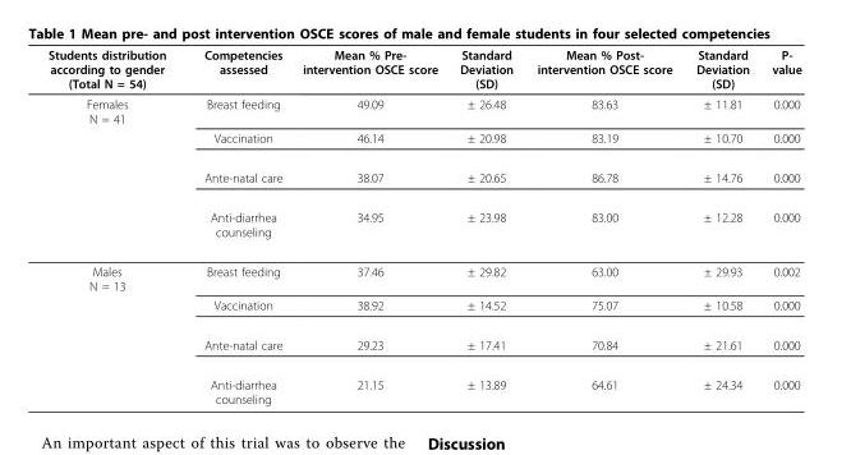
<table><thead><tr><td>Students distribution according to gender (Total N = 54)</td><td>Competencies assessed</td><td>Mean % Pre- intervention OSCE score</td><td>Standard Deviation (SD)</td><td>Mean % Post- intervention OSCE score</td><td>Standard Deviation (SD)</td><td>P- value</td></tr></thead><tbody><tr><td rowspan="4">Females N = 41</td><td>Breast feeding</td><td>49.09</td><td>± 26.48</td><td>83.63</td><td>± 11.81</td><td>0.000</td></tr><tr><td>Vaccination</td><td>46.14</td><td>± 20.98</td><td>83.19</td><td>± 10.70</td><td>0.000</td></tr><tr><td>Ante-natal care</td><td>38.07</td><td>± 20.65</td><td>86.78</td><td>± 14.76</td><td>0.000</td></tr><tr><td>Anti-diarrhea counseling</td><td>34.95</td><td>± 23.98</td><td>83.00</td><td>± 12.28</td><td>0.000</td></tr><tr><td rowspan="4">Males N = 13</td><td>Breast feeding</td><td>37.46</td><td>± 29.82</td><td>63.00</td><td>± 29.93</td><td>0.002</td></tr><tr><td>Vaccination</td><td>38.92</td><td>± 14.52</td><td>75.07</td><td>± 10.58</td><td>0.000</td></tr><tr><td>Ante-natal care</td><td>29.23</td><td>± 17.41</td><td>70.84</td><td>± 21.61</td><td>0.000</td></tr><tr><td>Anti-diarrhea counseling</td><td>21.15</td><td>± 13.89</td><td>64.61</td><td>± 24.34</td><td>0.000</td></tr></tbody></table>